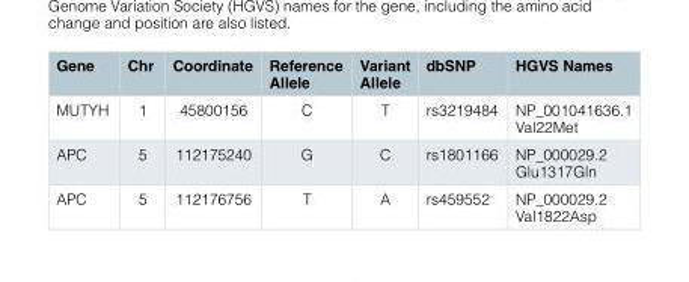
<table><thead><tr><td>Gene</td><td>Chr</td><td>Coordinate</td><td>Reference Allele</td><td>Variant Allele</td><td>dbSNP</td><td>HGVS Names</td></tr></thead><tbody><tr><td>MUTYH</td><td>1</td><td>45800156</td><td>C</td><td>T</td><td>rs3219484</td><td>NP_001041636.1 Val22Met</td></tr><tr><td>APC</td><td>5</td><td>112175240</td><td>G</td><td>C</td><td>rs1801166</td><td>NP_000029.2 Glu1317Gln</td></tr><tr><td>APC</td><td>5</td><td>112176756</td><td>T</td><td>A</td><td>rs459552</td><td>NP_000029.2 Val1822Asp</td></tr></tbody></table>